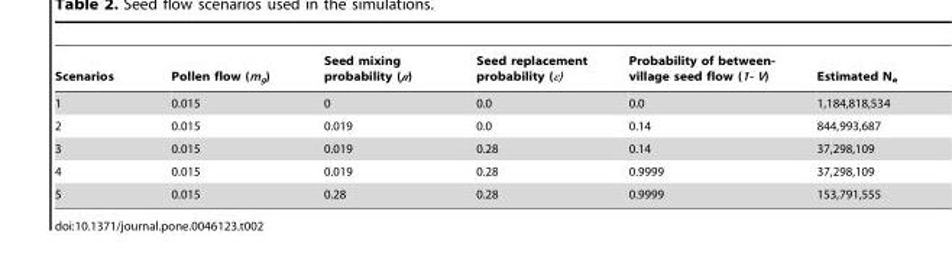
<table><thead><tr><td>Scenarios</td><td>Pollen flow (m<sub>g</sub>)</td><td>Seed mixing probability (μ)</td><td>Seed replacement probability (ε)</td><td>Probability of between- village seed flow (1- V)</td><td>Estimated N<sub>e</sub></td></tr></thead><tbody><tr><td>1</td><td>0.015</td><td>0</td><td>0.0</td><td>0.0</td><td>1,184,818,534</td></tr><tr><td>2</td><td>0.015</td><td>0.019</td><td>0.0</td><td>0.14</td><td>844,993,687</td></tr><tr><td>3</td><td>0.015</td><td>0.019</td><td>0.28</td><td>0.14</td><td>37,298,109</td></tr><tr><td>4</td><td>0.015</td><td>0.019</td><td>0.28</td><td>0.9999</td><td>37,298,109</td></tr><tr><td>5</td><td>0.015</td><td>0.28</td><td>0.28</td><td>0.9999</td><td>153,791,555</td></tr></tbody></table>